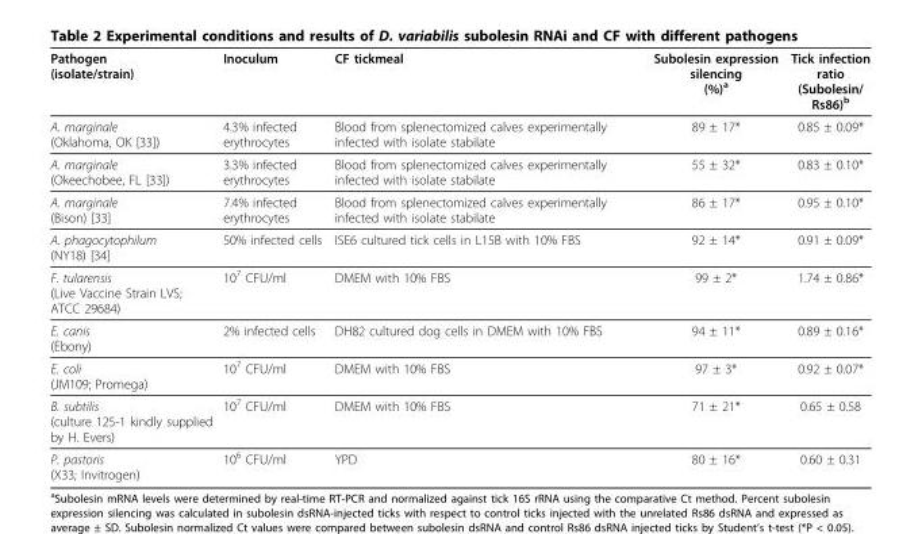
<table><thead><tr><td>Pathogen (isolate/strain)</td><td>Inoculum</td><td>CF tickmeal</td><td>Subolesin expression silencing (%)<sup>a</sup></td><td>Tick infection ratio (Subolesin/ Rs86)<sup>b</sup></td></tr></thead><tbody><tr><td>A. marginale (Oklahoma, OK [33])</td><td>4.3% infected erythrocytes</td><td>Blood from splenectomized calves experimentally infected with isolate stabilate</td><td>89 ± 17*</td><td>0.85 ± 0.09*</td></tr><tr><td>A. marginale (Okeechobee, FL [33])</td><td>3.3% infected erythrocytes</td><td>Blood from splenectomized calves experimentally infected with isolate stabilate</td><td>55 ± 32*</td><td>0.83 ± 0.10*</td></tr><tr><td>A. marginale (Bison) [33]</td><td>7.4% infected erythrocytes</td><td>Blood from splenectomized calves experimentally infected with isolate stabilate</td><td>86 ± 17*</td><td>0.95 ± 0.10*</td></tr><tr><td>A. phagocytophilum (NY18) [34]</td><td>50% infected cells</td><td>ISE6 cultured tick cells in L15B with 10% FBS</td><td>92 ± 14*</td><td>0.91 ± 0.09*</td></tr><tr><td>F. tularensis (Live Vaccine Strain LVS; ATCC 29684)</td><td>10<sup>7</sup> CFU/ml</td><td>DMEM with 10% FBS</td><td>99 ± 2*</td><td>1.74 ± 0.86*</td></tr><tr><td>E. canis (Ebony)</td><td>2% infected cells</td><td>DH82 cultured dog cells in DMEM with 10% FBS</td><td>94 ± 11*</td><td>0.89 ± 0.16*</td></tr><tr><td>E. coli (JM109; Promega)</td><td>10<sup>7</sup> CFU/ml</td><td>DMEM with 10% FBS</td><td>97 ± 3*</td><td>0.92 ± 0.07*</td></tr><tr><td>B. subtilis (culture 125-1 kindly supplied by H. Evers)</td><td>10<sup>7</sup> CFU/ml</td><td>DMEM with 10% FBS</td><td>71 ± 21*</td><td>0.65 ± 0.58</td></tr><tr><td>P. pastoris (X33; Invitrogen)</td><td>10<sup>6</sup> CFU/ml</td><td>YPD</td><td>80 ± 16*</td><td>0.60 ± 0.31</td></tr></tbody></table>